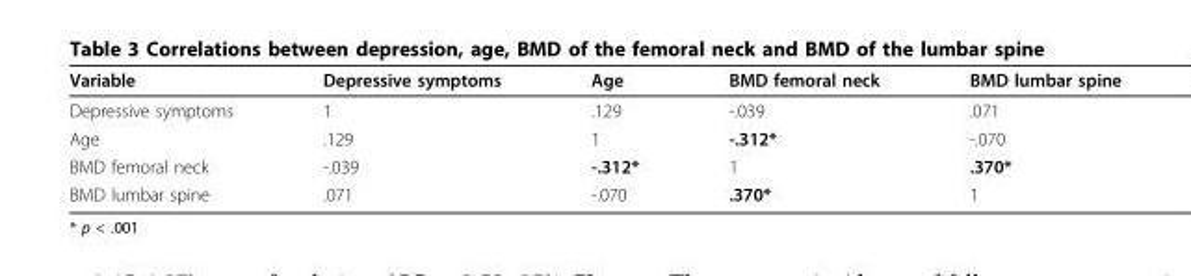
<table><thead><tr><td>Variable</td><td>Depressive symptoms</td><td>Age</td><td>BMD femoral neck</td><td>BMD lumbar spine</td></tr></thead><tbody><tr><td>Depressive symptoms</td><td>1</td><td>.129</td><td>-.039</td><td>.071</td></tr><tr><td>Age</td><td>.129</td><td>1</td><td>-.312*</td><td>-.070</td></tr><tr><td>BMD femoral neck</td><td>-.039</td><td>-.312*</td><td>1</td><td>.370*</td></tr><tr><td>BMD lumbar spine</td><td>.071</td><td>-.070</td><td>.370*</td><td>1</td></tr></tbody></table>